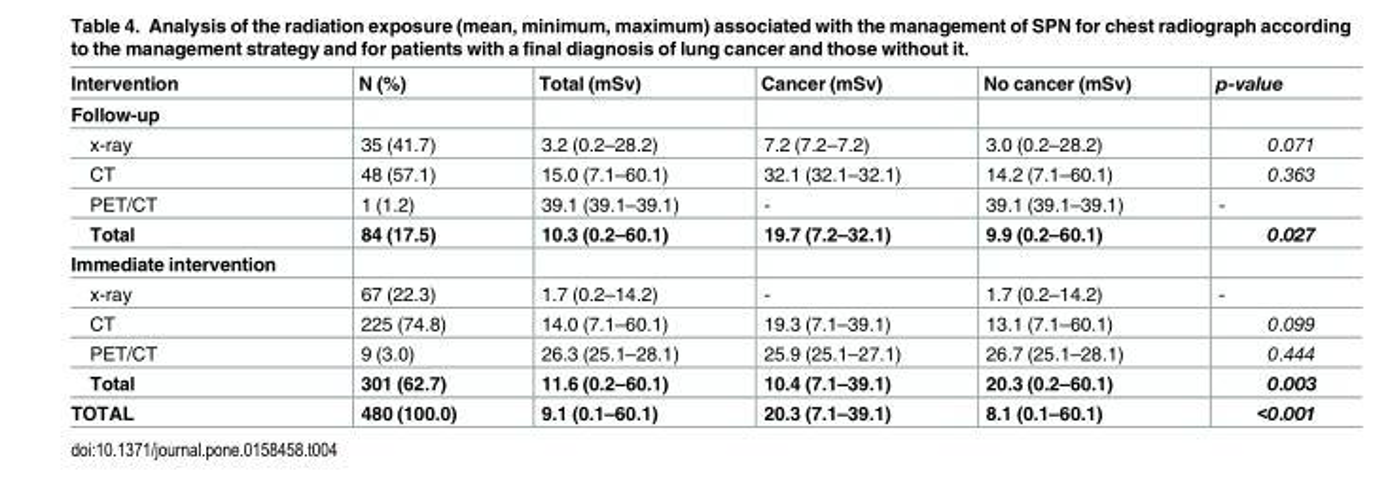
<table><thead><tr><td>Intervention</td><td>N (%)</td><td>Total (mSv)</td><td>Cancer (mSv)</td><td>No cancer (mSv)</td><td>p-value</td></tr></thead><tbody><tr><td colspan="6">Follow-up</td></tr><tr><td>x-ray</td><td>35 (41.7)</td><td>3.2 (0.2–28.2)</td><td>7.2 (7.2–7.2)</td><td>3.0 (0.2–28.2)</td><td>0.071</td></tr><tr><td>CT</td><td>48 (57.1)</td><td>15.0 (7.1–60.1)</td><td>32.1 (32.1–32.1)</td><td>14.2 (7.1–60.1)</td><td>0.363</td></tr><tr><td>PET/CT</td><td>1 (1.2)</td><td>39.1 (39.1–39.1)</td><td>-</td><td>39.1 (39.1–39.1)</td><td>-</td></tr><tr><td>Total</td><td>84 (17.5)</td><td>10.3 (0.2–60.1)</td><td>19.7 (7.2–32.1)</td><td>9.9 (0.2–60.1)</td><td>0.027</td></tr><tr><td colspan="6">Immediate intervention</td></tr><tr><td>x-ray</td><td>67 (22.3)</td><td>1.7 (0.2–14.2)</td><td>-</td><td>1.7 (0.2–14.2)</td><td>-</td></tr><tr><td>CT</td><td>225 (74.8)</td><td>14.0 (7.1–60.1)</td><td>19.3 (7.1–39.1)</td><td>13.1 (7.1–60.1)</td><td>0.099</td></tr><tr><td>PET/CT</td><td>9 (3.0)</td><td>26.3 (25.1–28.1)</td><td>25.9 (25.1–27.1)</td><td>26.7 (25.1–28.1)</td><td>0.444</td></tr><tr><td>Total</td><td>301 (62.7)</td><td>11.6 (0.2–60.1)</td><td>10.4 (7.1–39.1)</td><td>20.3 (0.2–60.1)</td><td>0.003</td></tr><tr><td>TOTAL</td><td>480 (100.0)</td><td>9.1 (0.1–60.1)</td><td>20.3 (7.1–39.1)</td><td>8.1 (0.1–60.1)</td><td>&lt;0.001</td></tr></tbody></table>